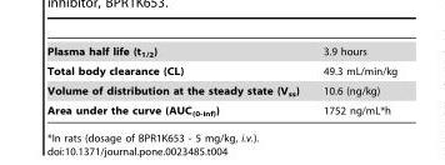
<table><tbody><tr><td>Plasma half life (t<sub>1/2</sub>)</td><td>3.9 hours</td></tr><tr><td>Total body clearance (CL)</td><td>49.3 mL/min/kg</td></tr><tr><td>Volume of distribution at the steady state (V<sub>ss</sub>)</td><td>10.6 (ng/kg)</td></tr><tr><td>Area under the curve (AUC<sub>(0-inf)</sub>)</td><td>1752 ng/mL*h</td></tr></tbody></table>